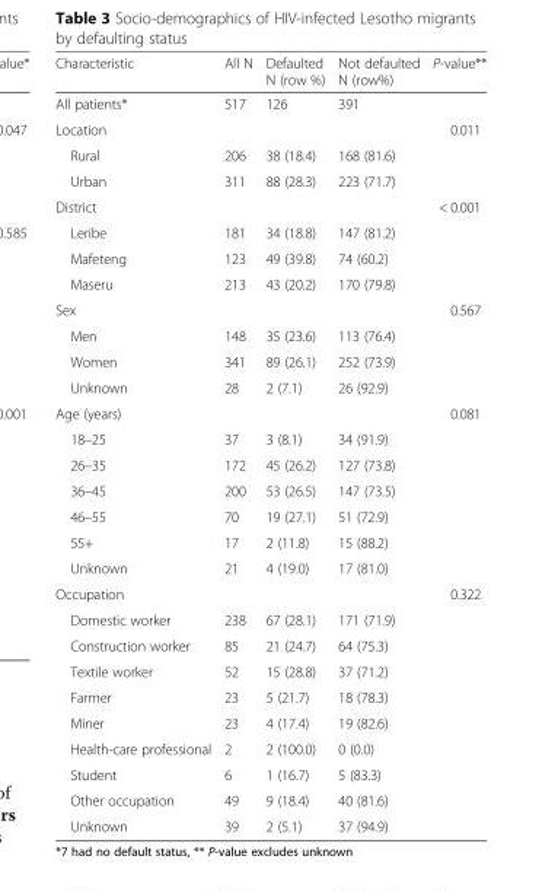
<table><thead><tr><td>Characteristic</td><td>All N</td><td>Defaulted N (row %)</td><td>Not defaulted N (row%)</td><td>P-value**</td></tr></thead><tbody><tr><td>All patients*</td><td>517</td><td>126</td><td>391</td><td></td></tr><tr><td>Location</td><td></td><td></td><td></td><td>0.011</td></tr><tr><td>Rural</td><td>206</td><td>38 (18.4)</td><td>168 (81.6)</td><td></td></tr><tr><td>Urban</td><td>311</td><td>88 (28.3)</td><td>223 (71.7)</td><td></td></tr><tr><td>District</td><td></td><td></td><td></td><td>&lt; 0.001</td></tr><tr><td>Leribe</td><td>181</td><td>34 (18.8)</td><td>147 (81.2)</td><td></td></tr><tr><td>Mafeteng</td><td>123</td><td>49 (39.8)</td><td>74 (60.2)</td><td></td></tr><tr><td>Maseru</td><td>213</td><td>43 (20.2)</td><td>170 (79.8)</td><td></td></tr><tr><td>Sex</td><td></td><td></td><td></td><td>0.567</td></tr><tr><td>Men</td><td>148</td><td>35 (23.6)</td><td>113 (76.4)</td><td></td></tr><tr><td>Women</td><td>341</td><td>89 (26.1)</td><td>252 (73.9)</td><td></td></tr><tr><td>Unknown</td><td>28</td><td>2 (7.1)</td><td>26 (92.9)</td><td></td></tr><tr><td>Age (years)</td><td></td><td></td><td></td><td>0.081</td></tr><tr><td>18–25</td><td>37</td><td>3 (8.1)</td><td>34 (91.9)</td><td></td></tr><tr><td>26–35</td><td>172</td><td>45 (26.2)</td><td>127 (73.8)</td><td></td></tr><tr><td>36–45</td><td>200</td><td>53 (26.5)</td><td>147 (73.5)</td><td></td></tr><tr><td>46–55</td><td>70</td><td>19 (27.1)</td><td>51 (72.9)</td><td></td></tr><tr><td>55+</td><td>17</td><td>2 (11.8)</td><td>15 (88.2)</td><td></td></tr><tr><td>Unknown</td><td>21</td><td>4 (19.0)</td><td>17 (81.0)</td><td></td></tr><tr><td>Occupation</td><td></td><td></td><td></td><td>0.322</td></tr><tr><td>Domestic worker</td><td>238</td><td>67 (28.1)</td><td>171 (71.9)</td><td></td></tr><tr><td>Construction worker</td><td>85</td><td>21 (24.7)</td><td>64 (75.3)</td><td></td></tr><tr><td>Textile worker</td><td>52</td><td>15 (28.8)</td><td>37 (71.2)</td><td></td></tr><tr><td>Farmer</td><td>23</td><td>5 (21.7)</td><td>18 (78.3)</td><td></td></tr><tr><td>Miner</td><td>23</td><td>4 (17.4)</td><td>19 (82.6)</td><td></td></tr><tr><td>Health-care professional</td><td>2</td><td>2 (100.0)</td><td>0 (0.0)</td><td></td></tr><tr><td>Student</td><td>6</td><td>1 (16.7)</td><td>5 (83.3)</td><td></td></tr><tr><td>Other occupation</td><td>49</td><td>9 (18.4)</td><td>40 (81.6)</td><td></td></tr><tr><td>Unknown</td><td>39</td><td>2 (5.1)</td><td>37 (94.9)</td><td></td></tr></tbody></table>